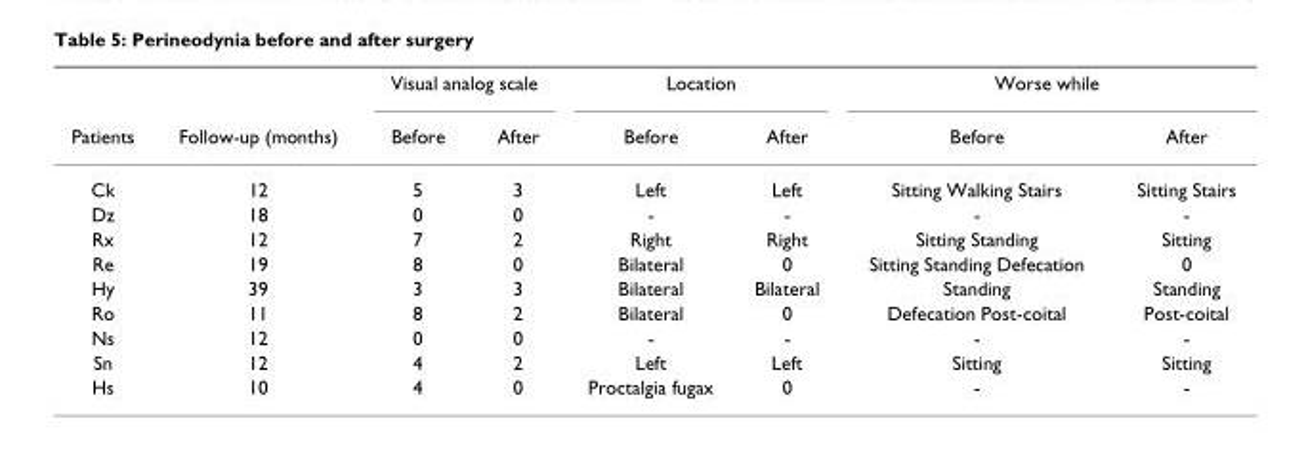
<table><thead><tr><td rowspan="2">Patients</td><td rowspan="2">Follow-up (months)</td><td colspan="2">Visual analog scale</td><td colspan="2">Location</td><td colspan="2">Worse while</td></tr><tr><td>Before</td><td>After</td><td>Before</td><td>After</td><td>Before</td><td>After</td></tr></thead><tbody><tr><td>Ck</td><td>12</td><td>5</td><td>3</td><td>Left</td><td>Left</td><td>Sitting Walking Stairs</td><td>Sitting Stairs</td></tr><tr><td>Dz</td><td>18</td><td>0</td><td>0</td><td>-</td><td>-</td><td>-</td><td>-</td></tr><tr><td>Rx</td><td>12</td><td>7</td><td>2</td><td>Right</td><td>Right</td><td>Sitting Standing</td><td>Sitting</td></tr><tr><td>Re</td><td>19</td><td>8</td><td>0</td><td>Bilateral</td><td>0</td><td>Sitting Standing Defecation</td><td>0</td></tr><tr><td>Hy</td><td>39</td><td>3</td><td>3</td><td>Bilateral</td><td>Bilateral</td><td>Standing</td><td>Standing</td></tr><tr><td>Ro</td><td>11</td><td>8</td><td>2</td><td>Bilateral</td><td>0</td><td>Defecation Post-coital</td><td>Post-coital</td></tr><tr><td>Ns</td><td>12</td><td>0</td><td>0</td><td>-</td><td>-</td><td>-</td><td>-</td></tr><tr><td>Sn</td><td>12</td><td>4</td><td>2</td><td>Left</td><td>Left</td><td>Sitting</td><td>Sitting</td></tr><tr><td>Hs</td><td>10</td><td>4</td><td>0</td><td>Proctalgia fugax</td><td>0</td><td>-</td><td>-</td></tr></tbody></table>